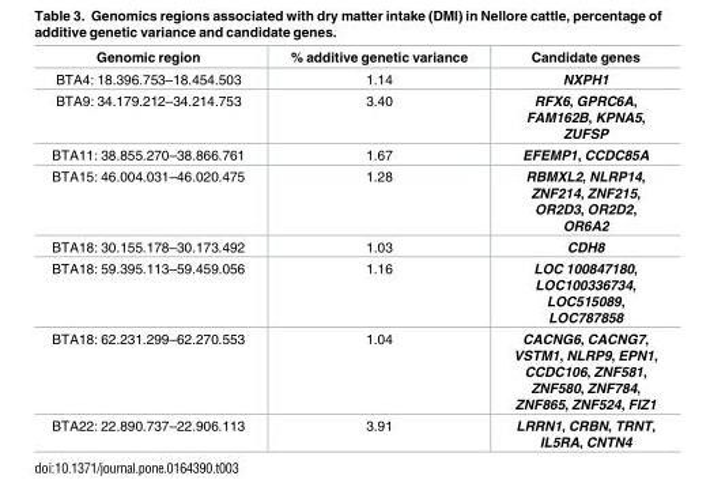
<table><thead><tr><td>Genomic region</td><td>% additive genetic variance</td><td>Candidate genes</td></tr></thead><tbody><tr><td>BTA4: 18.396.753–18.454.503</td><td>1.14</td><td>NXPH1</td></tr><tr><td>BTA9: 34.179.212–34.214.753</td><td>3.40</td><td>RFX6, GPRC6A, FAM162B, KPNA5, ZUFSP</td></tr><tr><td>BTA11: 38.855.270–38.866.761</td><td>1.67</td><td>EFEMP1, CCDC85A</td></tr><tr><td>BTA15: 46.004.031–46.020.475</td><td>1.28</td><td>RBMXL2, NLRP14, ZNF214, ZNF215, OR2D3, OR2D2, OR6A2</td></tr><tr><td>BTA18: 30.155.178–30.173.492</td><td>1.03</td><td>CDH8</td></tr><tr><td>BTA18: 59.395.113–59.459.056</td><td>1.16</td><td>LOC 100847180, LOC100336734, LOC515089, LOC787858</td></tr><tr><td>BTA18: 62.231.299–62.270.553</td><td>1.04</td><td>CACNG6, CACNG7, VSTM1, NLRP9, EPN1, CCDC106, ZNF581, ZNF580, ZNF784, ZNF865, ZNF524, FIZ1</td></tr><tr><td>BTA22: 22.890.737–22.906.113</td><td>3.91</td><td>LRRN1, CRBN, TRNT, IL5RA, CNTN4</td></tr></tbody></table>